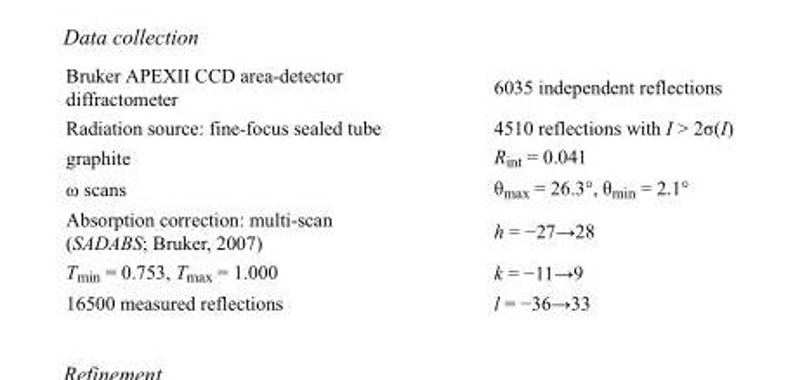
<table><tbody><tr><td>Bruker APEXII CCD area-detector diffractometer</td><td>6035 independent reflections</td></tr><tr><td>Radiation source: fine-focus sealed tube</td><td>4510 reflections with I &gt; 2σ(I)</td></tr><tr><td>graphite</td><td>R<sub>int</sub> = 0.041</td></tr><tr><td>ω scans</td><td>θ<sub>max</sub> = 26.3°, θ<sub>min</sub> = 2.1°</td></tr><tr><td>Absorption correction: multi-scan (SADABS; Bruker, 2007)</td><td>h = −27→28</td></tr><tr><td>T<sub>min</sub> = 0.753, T<sub>max</sub> = 1.000</td><td>k = −11→9</td></tr><tr><td>16500 measured reflections</td><td>l = −36→33</td></tr></tbody></table>